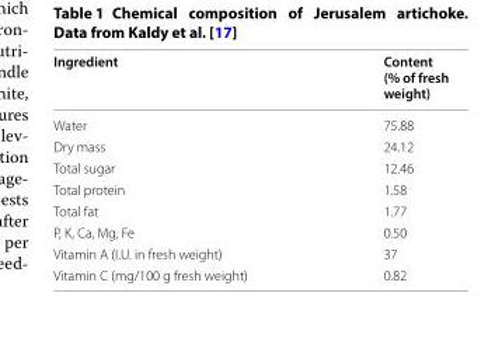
<table><thead><tr><td>Ingredient</td><td>Content (% of fresh weight)</td></tr></thead><tbody><tr><td>Water</td><td>75.88</td></tr><tr><td>Dry mass</td><td>24.12</td></tr><tr><td>Total sugar</td><td>12.46</td></tr><tr><td>Total protein</td><td>1.58</td></tr><tr><td>Total fat</td><td>1.77</td></tr><tr><td>P, K, Ca, Mg, Fe</td><td>0.50</td></tr><tr><td>Vitamin A (I.U. in fresh weight)</td><td>37</td></tr><tr><td>Vitamin C (mg/100 g fresh weight)</td><td>0.82</td></tr></tbody></table>